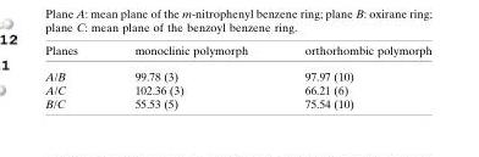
<table><thead><tr><td>Planes</td><td>monoclinic polymorph</td><td>orthorhombic polymorph</td></tr></thead><tbody><tr><td>A/B</td><td>99.78 (3)</td><td>97.97 (10)</td></tr><tr><td>A/C</td><td>102.36 (3)</td><td>66.21 (6)</td></tr><tr><td>B/C</td><td>55.53 (5)</td><td>75.54 (10)</td></tr></tbody></table>